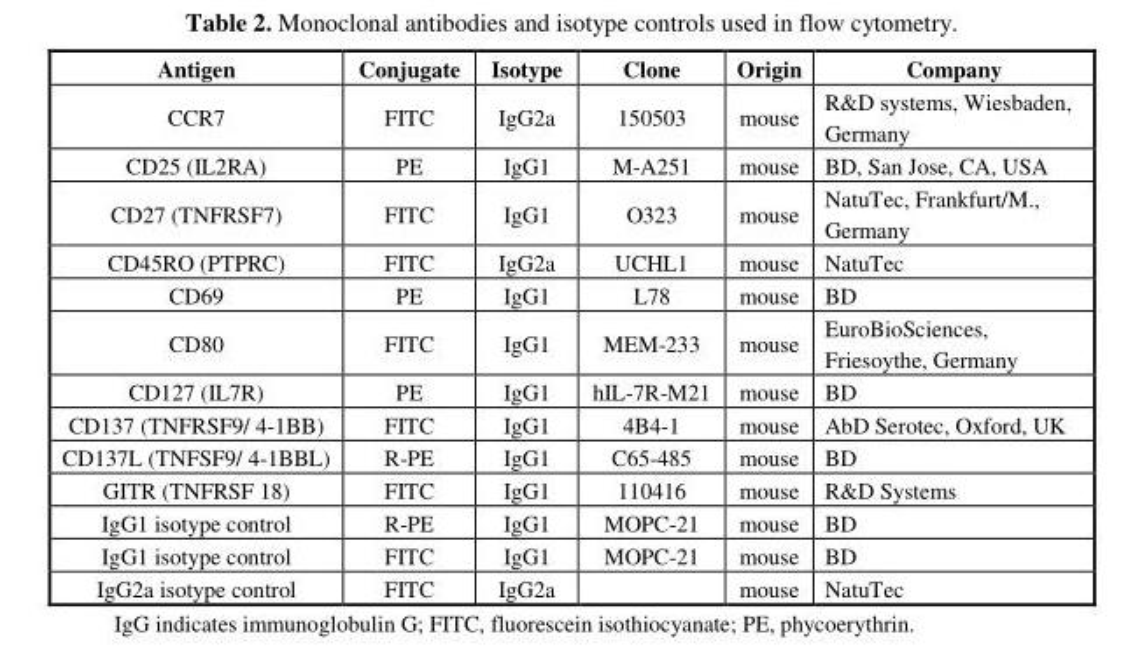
<table><thead><tr><td>Antigen</td><td>Conjugate</td><td>Isotype</td><td>Clone</td><td>Origin</td><td>Company</td></tr></thead><tbody><tr><td>CCR7</td><td>FITC</td><td>IgG2a</td><td>150503</td><td>mouse</td><td>R&amp;D systems, Wiesbaden, Germany</td></tr><tr><td>CD25 (IL2RA)</td><td>PE</td><td>IgG1</td><td>M-A251</td><td>mouse</td><td>BD, San Jose, CA, USA</td></tr><tr><td>CD27 (TNFRSF7)</td><td>FITC</td><td>IgG1</td><td>O323</td><td>mouse</td><td>NatuTec, Frankfurt/M., Germany</td></tr><tr><td>CD45RO (PTPRC)</td><td>FITC</td><td>IgG2a</td><td>UCHL1</td><td>mouse</td><td>NatuTec</td></tr><tr><td>CD69</td><td>PE</td><td>IgG1</td><td>L78</td><td>mouse</td><td>BD</td></tr><tr><td>CD80</td><td>FITC</td><td>IgG1</td><td>MEM-233</td><td>mouse</td><td>EuroBioSciences, Friesoythe, Germany</td></tr><tr><td>CD127 (IL7R)</td><td>PE</td><td>IgG1</td><td>hIL-7R-M21</td><td>mouse</td><td>BD</td></tr><tr><td>CD137 (TNFRSF9/ 4-1BB)</td><td>FITC</td><td>IgG1</td><td>4B4-1</td><td>mouse</td><td>AbD Serotec, Oxford, UK</td></tr><tr><td>CD137L (TNFSF9/ 4-1BBL)</td><td>R-PE</td><td>IgG1</td><td>C65-485</td><td>mouse</td><td>BD</td></tr><tr><td>GITR (TNFRSF 18)</td><td>FITC</td><td>IgG1</td><td>110416</td><td>mouse</td><td>R&amp;D Systems</td></tr><tr><td>IgG1 isotype control</td><td>R-PE</td><td>IgG1</td><td>MOPC-21</td><td>mouse</td><td>BD</td></tr><tr><td>IgG1 isotype control</td><td>FITC</td><td>IgG1</td><td>MOPC-21</td><td>mouse</td><td>BD</td></tr><tr><td>IgG2a isotype control</td><td>FITC</td><td>IgG2a</td><td></td><td>mouse</td><td>NatuTec</td></tr></tbody></table>